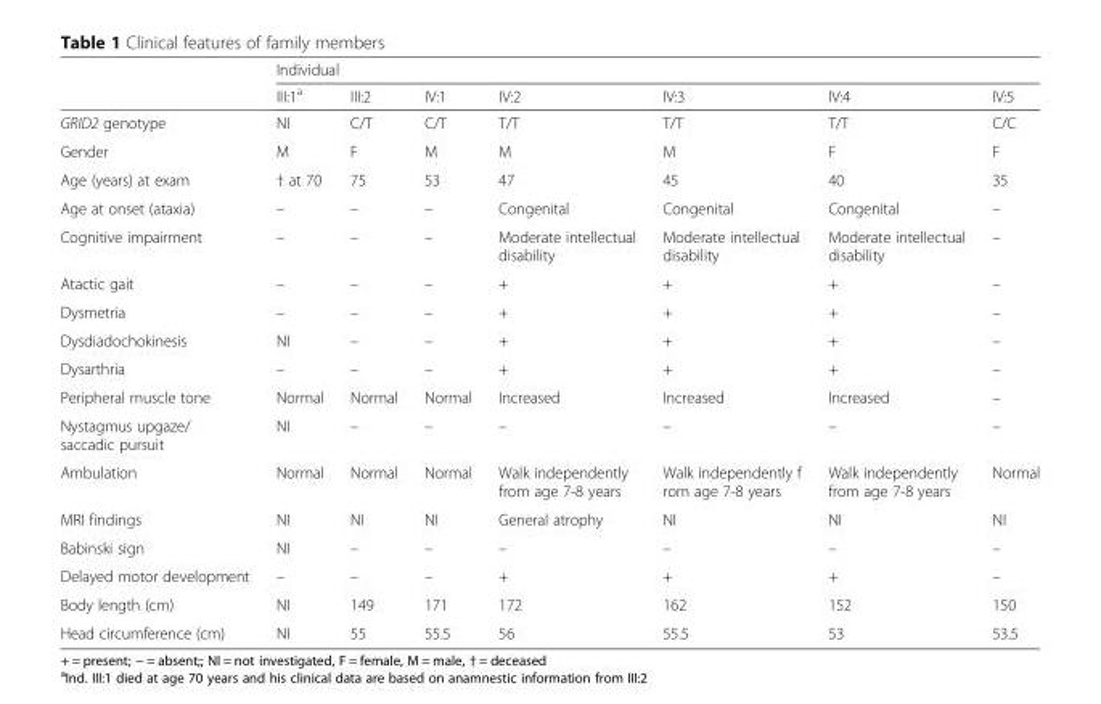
<table><thead><tr><td rowspan="2"></td><td colspan="7">Individual</td></tr><tr><td>III:1<sup>a</sup></td><td>III:2</td><td>IV:1</td><td>IV:2</td><td>IV:3</td><td>IV:4</td><td>IV:5</td></tr></thead><tbody><tr><td>GRID2 genotype</td><td>NI</td><td>C/T</td><td>C/T</td><td>T/T</td><td>T/T</td><td>T/T</td><td>C/C</td></tr><tr><td>Gender</td><td>M</td><td>F</td><td>M</td><td>M</td><td>M</td><td>F</td><td>F</td></tr><tr><td>Age (years) at exam</td><td>† at 70</td><td>75</td><td>53</td><td>47</td><td>45</td><td>40</td><td>35</td></tr><tr><td>Age at onset (ataxia)</td><td>–</td><td>–</td><td>–</td><td>Congenital</td><td>Congenital</td><td>Congenital</td><td>–</td></tr><tr><td>Cognitive impairment</td><td>–</td><td>–</td><td>–</td><td>Moderate intellectual disability</td><td>Moderate intellectual disability</td><td>Moderate intellectual disability</td><td>–</td></tr><tr><td>Atactic gait</td><td>–</td><td>–</td><td>–</td><td>+</td><td>+</td><td>+</td><td>–</td></tr><tr><td>Dysmetria</td><td>–</td><td>–</td><td>–</td><td>+</td><td>+</td><td>+</td><td>–</td></tr><tr><td>Dysdiadochokinesis</td><td>NI</td><td>–</td><td>–</td><td>+</td><td>+</td><td>+</td><td>–</td></tr><tr><td>Dysarthria</td><td>–</td><td>–</td><td>–</td><td>+</td><td>+</td><td>+</td><td>–</td></tr><tr><td>Peripheral muscle tone</td><td>Normal</td><td>Normal</td><td>Normal</td><td>Increased</td><td>Increased</td><td>Increased</td><td>–</td></tr><tr><td>Nystagmus upgaze/ saccadic pursuit</td><td>NI</td><td>–</td><td>–</td><td>–</td><td>–</td><td>–</td><td>–</td></tr><tr><td>Ambulation</td><td>Normal</td><td>Normal</td><td>Normal</td><td>Walk independently from age 7-8 years</td><td>Walk independently f rom age 7-8 years</td><td>Walk independently from age 7-8 years</td><td>Normal</td></tr><tr><td>MRI findings</td><td>NI</td><td>NI</td><td>NI</td><td>General atrophy</td><td>NI</td><td>NI</td><td>NI</td></tr><tr><td>Babinski sign</td><td>NI</td><td>–</td><td>–</td><td>–</td><td>–</td><td>–</td><td>–</td></tr><tr><td>Delayed motor development</td><td>–</td><td>–</td><td>–</td><td>+</td><td>+</td><td>+</td><td>–</td></tr><tr><td>Body length (cm)</td><td>NI</td><td>149</td><td>171</td><td>172</td><td>162</td><td>152</td><td>150</td></tr><tr><td>Head circumference (cm)</td><td>NI</td><td>55</td><td>55.5</td><td>56</td><td>55.5</td><td>53</td><td>53.5</td></tr></tbody></table>